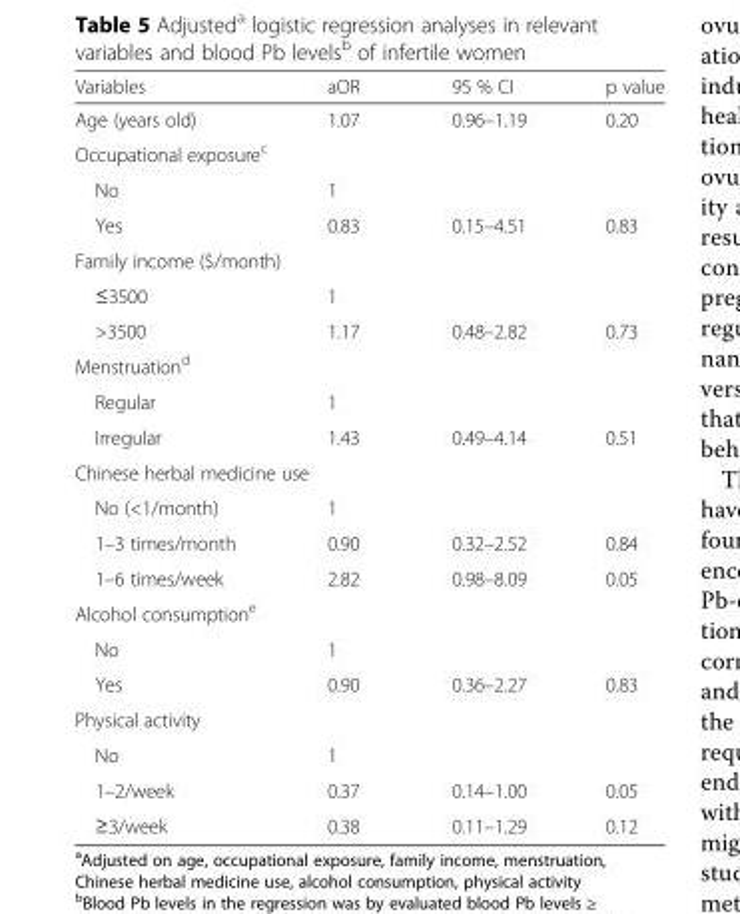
<table><thead><tr><td>Variables</td><td>aOR</td><td>95 % CI</td><td>p value</td></tr></thead><tbody><tr><td>Age (years old)</td><td>1.07</td><td>0.96–1.19</td><td>0.20</td></tr><tr><td colspan="4">Occupational exposure<sup>c</sup></td></tr><tr><td>No</td><td>1</td><td></td><td></td></tr><tr><td>Yes</td><td>0.83</td><td>0.15–4.51</td><td>0.83</td></tr><tr><td colspan="4">Family income ($/month)</td></tr><tr><td>≤3500</td><td>1</td><td></td><td></td></tr><tr><td>&gt;3500</td><td>1.17</td><td>0.48–2.82</td><td>0.73</td></tr><tr><td colspan="4">Menstruation<sup>d</sup></td></tr><tr><td>Regular</td><td>1</td><td></td><td></td></tr><tr><td>Irregular</td><td>1.43</td><td>0.49–4.14</td><td>0.51</td></tr><tr><td colspan="4">Chinese herbal medicine use</td></tr><tr><td>No (&lt;1/month)</td><td>1</td><td></td><td></td></tr><tr><td>1–3 times/month</td><td>0.90</td><td>0.32–2.52</td><td>0.84</td></tr><tr><td>1–6 times/week</td><td>2.82</td><td>0.98–8.09</td><td>0.05</td></tr><tr><td colspan="4">Alcohol consumption<sup>e</sup></td></tr><tr><td>No</td><td>1</td><td></td><td></td></tr><tr><td>Yes</td><td>0.90</td><td>0.36–2.27</td><td>0.83</td></tr><tr><td colspan="4">Physical activity</td></tr><tr><td>No</td><td>1</td><td></td><td></td></tr><tr><td>1–2/week</td><td>0.37</td><td>0.14–1.00</td><td>0.05</td></tr><tr><td>≥3/week</td><td>0.38</td><td>0.11–1.29</td><td>0.12</td></tr></tbody></table>